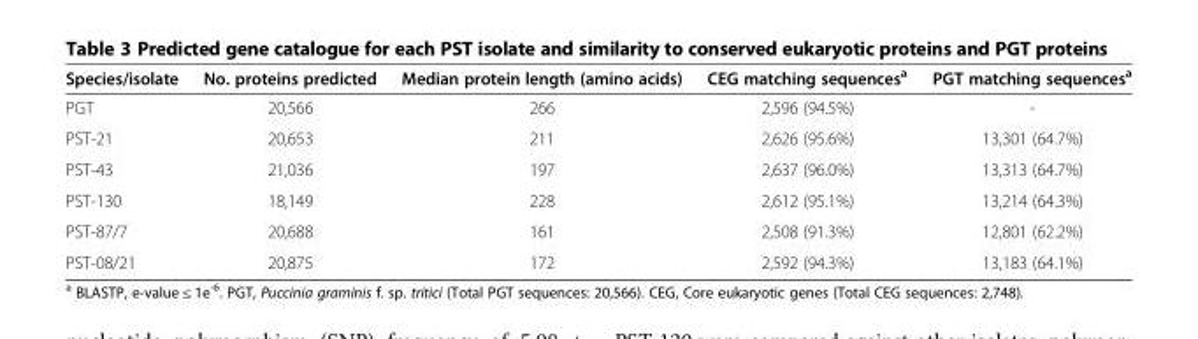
<table><thead><tr><td>Species/isolate</td><td>No. proteins predicted</td><td>Median protein length (amino acids)</td><td>CEG matching sequences<sup>a</sup></td><td>PGT matching sequences<sup>a</sup></td></tr></thead><tbody><tr><td>PGT</td><td>20,566</td><td>266</td><td>2,596 (94.5%)</td><td>-</td></tr><tr><td>PST-21</td><td>20,653</td><td>211</td><td>2,626 (95.6%)</td><td>13,301 (64.7%)</td></tr><tr><td>PST-43</td><td>21,036</td><td>197</td><td>2,637 (96.0%)</td><td>13,313 (64.7%)</td></tr><tr><td>PST-130</td><td>18,149</td><td>228</td><td>2,612 (95.1%)</td><td>13,214 (64.3%)</td></tr><tr><td>PST-87/7</td><td>20,688</td><td>161</td><td>2,508 (91.3%)</td><td>12,801 (62.2%)</td></tr><tr><td>PST-08/21</td><td>20,875</td><td>172</td><td>2,592 (94.3%)</td><td>13,183 (64.1%)</td></tr></tbody></table>